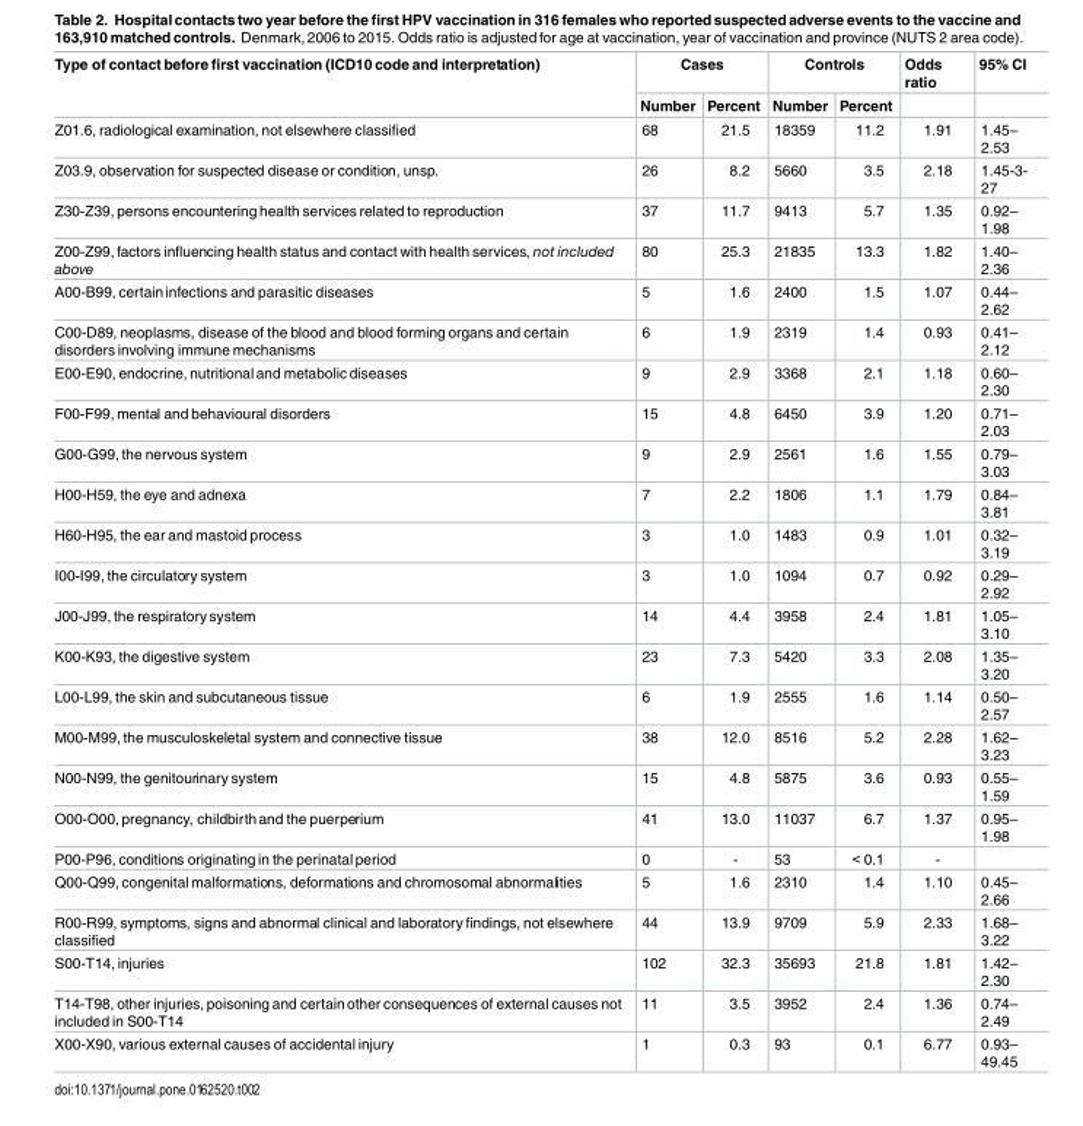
<table><thead><tr><td rowspan="2">Type of contact before first vaccination (ICD10 code and interpretation)</td><td colspan="2">Cases</td><td colspan="2">Controls</td><td rowspan="2">Odds ratio</td><td rowspan="2">95% CI</td></tr><tr><td>Number</td><td>Percent</td><td>Number</td><td>Percent</td></tr></thead><tbody><tr><td>Z01.6, radiological examination, not elsewhere classified</td><td>68</td><td>21.5</td><td>18359</td><td>11.2</td><td>1.91</td><td>1.45– 2.53</td></tr><tr><td>Z03.9, observation for suspected disease or condition, unsp.</td><td>26</td><td>8.2</td><td>5660</td><td>3.5</td><td>2.18</td><td>1.45-3- 27</td></tr><tr><td>Z30-Z39, persons encountering health services related to reproduction</td><td>37</td><td>11.7</td><td>9413</td><td>5.7</td><td>1.35</td><td>0.92– 1.98</td></tr><tr><td>Z00-Z99, factors influencing health status and contact with health services, not included above</td><td>80</td><td>25.3</td><td>21835</td><td>13.3</td><td>1.82</td><td>1.40– 2.36</td></tr><tr><td>A00-B99, certaininfections and parasitic diseases</td><td>5</td><td>1.6</td><td>2400</td><td>1.5</td><td>1.07</td><td>0.44– 2.62</td></tr><tr><td>C00-D89, neoplasms, disease of the blood and blood forming organs and certain disorders involving immune mechanisms</td><td>6</td><td>1.9</td><td>2319</td><td>1.4</td><td>0.93</td><td>0.41– 2.12</td></tr><tr><td>E00-E90, endocrine, nutritional and metabolic diseases</td><td>9</td><td>2.9</td><td>3368</td><td>2.1</td><td>1.18</td><td>0.60– 2.30</td></tr><tr><td>F00-F99, mental and behavioural disorders</td><td>15</td><td>4.8</td><td>6450</td><td>3.9</td><td>1.20</td><td>0.71– 2.03</td></tr><tr><td>G00-G99, the nervous system</td><td>9</td><td>2.9</td><td>2561</td><td>1.6</td><td>1.55</td><td>0.79– 3.03</td></tr><tr><td>H00-H59, the eye and adnexa</td><td>7</td><td>2.2</td><td>1806</td><td>1.1</td><td>1.79</td><td>0.84– 3.81</td></tr><tr><td>H60-H95, the ear and mastoid process</td><td>3</td><td>1.0</td><td>1483</td><td>0.9</td><td>1.01</td><td>0.32– 3.19</td></tr><tr><td>I00-I99, the circulatory system</td><td>3</td><td>1.0</td><td>1094</td><td>0.7</td><td>0.92</td><td>0.29– 2.92</td></tr><tr><td>J00-J99, the respiratorysystem</td><td>14</td><td>4.4</td><td>3958</td><td>2.4</td><td>1.81</td><td>1.05– 3.10</td></tr><tr><td>K00-K93, the digestive system</td><td>23</td><td>7.3</td><td>5420</td><td>3.3</td><td>2.08</td><td>1.35– 3.20</td></tr><tr><td>L00-L99, the skin and subcutaneous tissue</td><td>6</td><td>1.9</td><td>2555</td><td>1.6</td><td>1.14</td><td>0.50– 2.57</td></tr><tr><td>M00-M99, the musculoskeletal system and connective tissue</td><td>38</td><td>12.0</td><td>8516</td><td>5.2</td><td>2.28</td><td>1.62– 3.23</td></tr><tr><td>N00-N99, the genitourinary system</td><td>15</td><td>4.8</td><td>5875</td><td>3.6</td><td>0.93</td><td>0.55– 1.59</td></tr><tr><td>O00-O00, pregnancy, childbirthand the puerperium</td><td>41</td><td>13.0</td><td>11037</td><td>6.7</td><td>1.37</td><td>0.95– 1.98</td></tr><tr><td>P00-P96, conditions originatingin the perinatal period</td><td>0</td><td>-</td><td>53</td><td>&lt; 0.1</td><td>-</td><td></td></tr><tr><td>Q00-Q99, congenital malformations, deformations and chromosomal abnormalities</td><td>5</td><td>1.6</td><td>2310</td><td>1.4</td><td>1.10</td><td>0.45– 2.66</td></tr><tr><td>R00-R99, symptoms, signs and abnormal clinical and laboratory findings, not elsewhere classified</td><td>44</td><td>13.9</td><td>9709</td><td>5.9</td><td>2.33</td><td>1.68– 3.22</td></tr><tr><td>S00-T14, injuries</td><td>102</td><td>32.3</td><td>35693</td><td>21.8</td><td>1.81</td><td>1.42– 2.30</td></tr><tr><td>T14-T98, other injuries, poisoning and certainother consequences of external causes not included in S00-T14</td><td>11</td><td>3.5</td><td>3952</td><td>2.4</td><td>1.36</td><td>0.74– 2.49</td></tr><tr><td>X00-X90, various external causes of accidental injury</td><td>1</td><td>0.3</td><td>93</td><td>0.1</td><td>6.77</td><td>0.93– 49.45</td></tr></tbody></table>